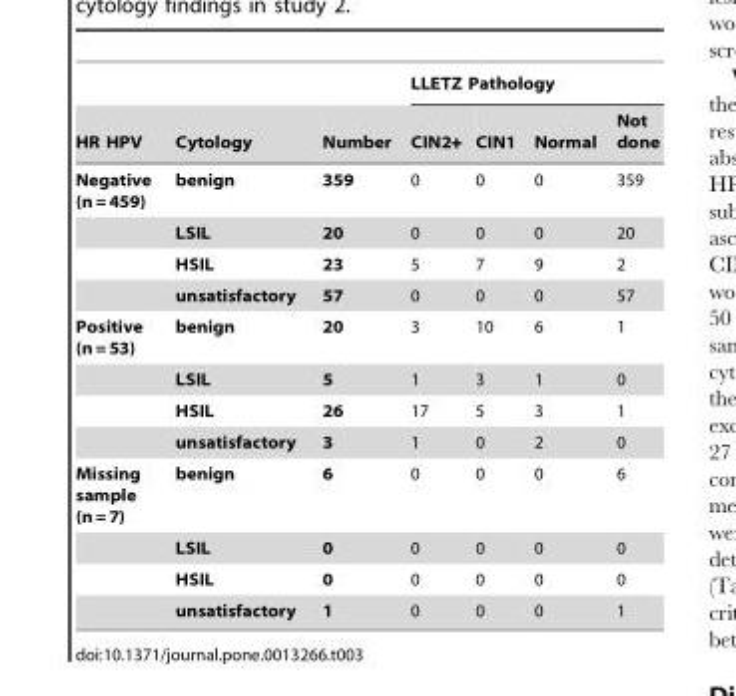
<table><thead><tr><td rowspan="2">HR HPV</td><td rowspan="2">Cytology</td><td rowspan="2">Number</td><td colspan="4">LLETZ Pathology</td></tr><tr><td>CIN2+</td><td>CIN1</td><td>Normal</td><td>Not done</td></tr></thead><tbody><tr><td rowspan="4">Negative (n = 459)</td><td>benign</td><td>359</td><td>0</td><td>0</td><td>0</td><td>359</td></tr><tr><td>LSIL</td><td>20</td><td>0</td><td>0</td><td>0</td><td>20</td></tr><tr><td>HSIL</td><td>23</td><td>5</td><td>7</td><td>9</td><td>2</td></tr><tr><td>unsatisfactory</td><td>57</td><td>0</td><td>0</td><td>0</td><td>57</td></tr><tr><td rowspan="4">Positive (n = 53)</td><td>benign</td><td>20</td><td>3</td><td>10</td><td>6</td><td>1</td></tr><tr><td>LSIL</td><td>5</td><td>1</td><td>3</td><td>1</td><td>0</td></tr><tr><td>HSIL</td><td>26</td><td>17</td><td>5</td><td>3</td><td>1</td></tr><tr><td>unsatisfactory</td><td>3</td><td>1</td><td>0</td><td>2</td><td>0</td></tr><tr><td rowspan="4">Missing sample (n = 7)</td><td>benign</td><td>6</td><td>0</td><td>0</td><td>0</td><td>6</td></tr><tr><td>LSIL</td><td>0</td><td>0</td><td>0</td><td>0</td><td>0</td></tr><tr><td>HSIL</td><td>0</td><td>0</td><td>0</td><td>0</td><td>0</td></tr><tr><td>unsatisfactory</td><td>1</td><td>0</td><td>0</td><td>0</td><td>1</td></tr></tbody></table>